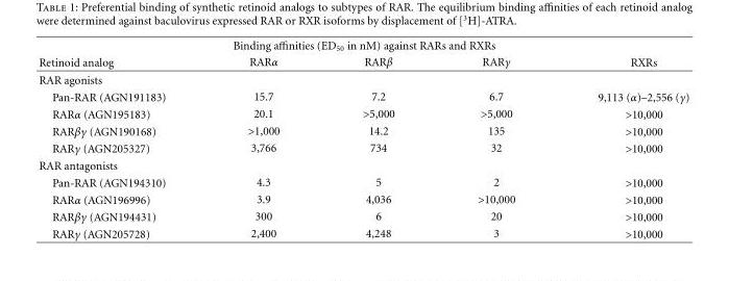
<table><thead><tr><td colspan="5">Binding affinities (ED<sub>50</sub> in nM) against RARs and RXRs</td></tr><tr><td>Retinoid analog</td><td>RARα</td><td>RARβ</td><td>RARγ</td><td>RXRs</td></tr></thead><tbody><tr><td colspan="5">RAR agonists</td></tr><tr><td>Pan-RAR (AGN191183)</td><td>15.7</td><td>7.2</td><td>6.7</td><td>9,113 (α)–2,556 (γ)</td></tr><tr><td>RARα (AGN195183)</td><td>20.1</td><td>&gt;5,000</td><td>&gt;5,000</td><td>&gt;10,000</td></tr><tr><td>RARβγ (AGN190168)</td><td>&gt;1,000</td><td>14.2</td><td>135</td><td>&gt;10,000</td></tr><tr><td>RARγ (AGN205327)</td><td>3,766</td><td>734</td><td>32</td><td>&gt;10,000</td></tr><tr><td colspan="5">RAR antagonists</td></tr><tr><td>Pan-RAR (AGN194310)</td><td>4.3</td><td>5</td><td>2</td><td>&gt;10,000</td></tr><tr><td>RARα (AGN196996)</td><td>3.9</td><td>4,036</td><td>&gt;10,000</td><td>&gt;10,000</td></tr><tr><td>RARβγ (AGN194431)</td><td>300</td><td>6</td><td>20</td><td>&gt;10,000</td></tr><tr><td>RARγ (AGN205728)</td><td>2,400</td><td>4,248</td><td>3</td><td>&gt;10,000</td></tr></tbody></table>